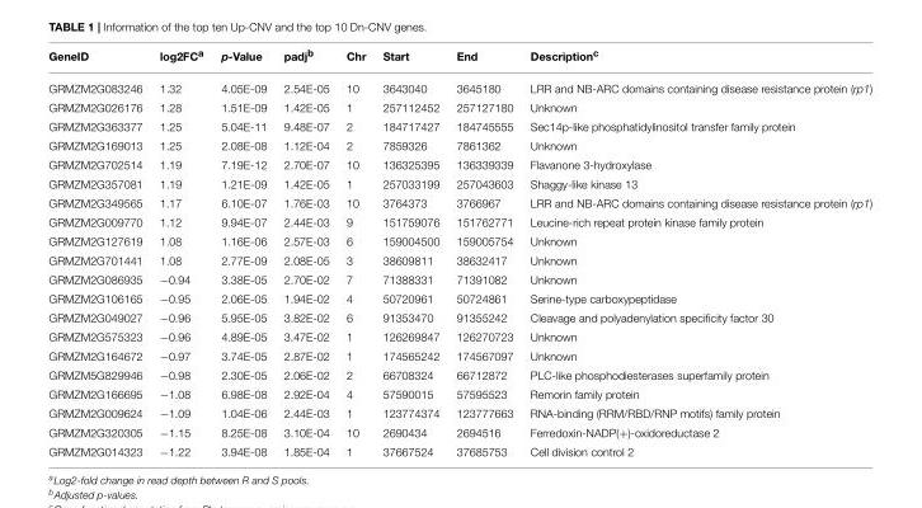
<table><thead><tr><td>GeneID</td><td>log2FC<sup>a</sup></td><td>p-Value</td><td>padj<sup>b</sup></td><td>Chr</td><td>Start</td><td>End</td><td>Description<sup>c</sup></td></tr></thead><tbody><tr><td>GRMZM2G083246</td><td>1.32</td><td>4.05E-09</td><td>2.54E-05</td><td>10</td><td>3643040</td><td>3645180</td><td>LRR and NB-ARC domains containing disease resistance protein (rp1)</td></tr><tr><td>GRMZM2G026176</td><td>1.28</td><td>1.51E-09</td><td>1.42E-05</td><td>1</td><td>257112452</td><td>257127180</td><td>Unknown</td></tr><tr><td>GRMZM2G363377</td><td>1.25</td><td>5.04E-11</td><td>9.48E-07</td><td>2</td><td>184717427</td><td>184745555</td><td>Sec14p-like phosphatidylinositol transfer family protein</td></tr><tr><td>GRMZM2G169013</td><td>1.25</td><td>2.08E-08</td><td>1.12E-04</td><td>2</td><td>7859326</td><td>7861362</td><td>Unknown</td></tr><tr><td>GRMZM2G702514</td><td>1.19</td><td>7.19E-12</td><td>2.70E-07</td><td>10</td><td>136325395</td><td>136339339</td><td>Flavanone 3-hydroxylase</td></tr><tr><td>GRMZM2G357081</td><td>1.19</td><td>1.21E-09</td><td>1.42E-05</td><td>1</td><td>257033199</td><td>257043603</td><td>Shaggy-like kinase 13</td></tr><tr><td>GRMZM2G349565</td><td>1.17</td><td>6.10E-07</td><td>1.76E-03</td><td>10</td><td>3764373</td><td>3766967</td><td>LRR and NB-ARC domains containing disease resistance protein (rp1)</td></tr><tr><td>GRMZM2G009770</td><td>1.12</td><td>9.94E-07</td><td>2.44E-03</td><td>9</td><td>151759076</td><td>151762771</td><td>Leucine-rich repeat protein kinase family protein</td></tr><tr><td>GRMZM2G127619</td><td>1.08</td><td>1.16E-06</td><td>2.57E-03</td><td>6</td><td>159004500</td><td>159005754</td><td>Unknown</td></tr><tr><td>GRMZM2G701441</td><td>1.08</td><td>2.77E-09</td><td>2.08E-05</td><td>3</td><td>38609811</td><td>38632417</td><td>Unknown</td></tr><tr><td>GRMZM2G086935</td><td>−0.94</td><td>3.38E-05</td><td>2.70E-02</td><td>7</td><td>71388331</td><td>71391082</td><td>Unknown</td></tr><tr><td>GRMZM2G106165</td><td>−0.95</td><td>2.06E-05</td><td>1.94E-02</td><td>4</td><td>50720961</td><td>50724861</td><td>Serine-type carboxypeptidase</td></tr><tr><td>GRMZM2G049027</td><td>−0.96</td><td>5.95E-05</td><td>3.82E-02</td><td>6</td><td>91353470</td><td>91355242</td><td>Cleavage and polyadenylation specificity factor 30</td></tr><tr><td>GRMZM2G575323</td><td>−0.96</td><td>4.89E-05</td><td>3.47E-02</td><td>1</td><td>126269847</td><td>126270723</td><td>Unknown</td></tr><tr><td>GRMZM2G164672</td><td>−0.97</td><td>3.74E-05</td><td>2.87E-02</td><td>1</td><td>174565242</td><td>174567097</td><td>Unknown</td></tr><tr><td>GRMZM5G829946</td><td>−0.98</td><td>2.30E-05</td><td>2.06E-02</td><td>2</td><td>66708324</td><td>66712872</td><td>PLC-like phosphodiesterases superfamily protein</td></tr><tr><td>GRMZM2G166695</td><td>−1.08</td><td>6.98E-08</td><td>2.92E-04</td><td>4</td><td>57590015</td><td>57595523</td><td>Remorin family protein</td></tr><tr><td>GRMZM2G009624</td><td>−1.09</td><td>1.04E-06</td><td>2.44E-03</td><td>1</td><td>123774374</td><td>123777663</td><td>RNA-binding (RRM/RBD/RNP motifs) family protein</td></tr><tr><td>GRMZM2G320305</td><td>−1.15</td><td>8.25E-08</td><td>3.10E-04</td><td>10</td><td>2690434</td><td>2694516</td><td>Ferredoxin-NADP(+)-oxidoreductase 2</td></tr><tr><td>GRMZM2G014323</td><td>−1.22</td><td>3.94E-08</td><td>1.85E-04</td><td>1</td><td>37667524</td><td>37685753</td><td>Cell division control 2</td></tr></tbody></table>